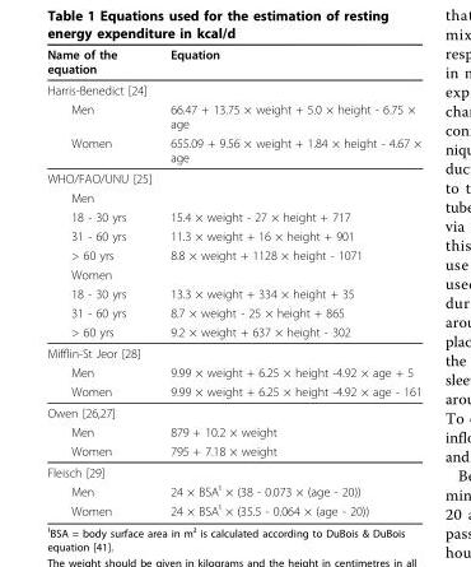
<table><thead><tr><td>Name of the equation</td><td>Equation</td></tr></thead><tbody><tr><td colspan="2">Harris-Benedict [24]</td></tr><tr><td>Men</td><td>66.47 + 13.75 × weight + 5.0 × height - 6.75 × age</td></tr><tr><td>Women</td><td>655.09 + 9.56 × weight + 1.84 × height - 4.67 × age</td></tr><tr><td colspan="2">WHO/FAO/UNU [25]</td></tr><tr><td colspan="2">Men</td></tr><tr><td>18 - 30 yrs</td><td>15.4 × weight - 27 × height + 717</td></tr><tr><td>31 - 60 yrs</td><td>11.3 × weight + 16 × height + 901</td></tr><tr><td>&gt; 60 yrs</td><td>8.8 × weight + 1128 × height - 1071</td></tr><tr><td colspan="2">Women</td></tr><tr><td>18 - 30 yrs</td><td>13.3 × weight + 334 × height + 35</td></tr><tr><td>31 - 60 yrs</td><td>8.7 × weight - 25 × height + 865</td></tr><tr><td>&gt; 60 yrs</td><td>9.2 × weight + 637 × height - 302</td></tr><tr><td colspan="2">Mifflin-St Jeor [28]</td></tr><tr><td>Men</td><td>9.99 × weight + 6.25 × height -4.92 × age + 5</td></tr><tr><td>Women</td><td>9.99 × weight + 6.25 × height -4.92 × age - 161</td></tr><tr><td colspan="2">Owen [26,27]</td></tr><tr><td>Men</td><td>879 + 10.2 × weight</td></tr><tr><td>Women</td><td>795 + 7.18 × weight</td></tr><tr><td colspan="2">Fleisch [29]</td></tr><tr><td>Men</td><td>24 × BSA¹ × (38 - 0.073 × (age - 20))</td></tr><tr><td>Women</td><td>24 × BSA¹ × (35.5 - 0.064 × (age - 20))</td></tr></tbody></table>